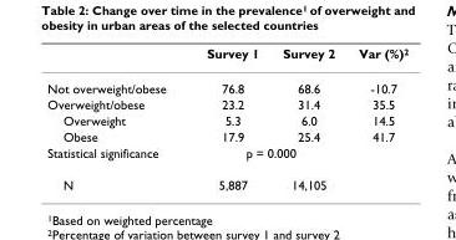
<table><thead><tr><td></td><td>Survey 1</td><td>Survey 2</td><td>Var (%)<sup>2</sup></td></tr></thead><tbody><tr><td>Not overweight/obese</td><td>76.8</td><td>68.6</td><td>-10.7</td></tr><tr><td>Overweight/obese</td><td>23.2</td><td>31.4</td><td>35.5</td></tr><tr><td>Overweight</td><td>5.3</td><td>6.0</td><td>14.5</td></tr><tr><td>Obese</td><td>17.9</td><td>25.4</td><td>41.7</td></tr><tr><td>Statistical significance</td><td colspan="2">p = 0.000</td><td></td></tr><tr><td>N</td><td>5,887</td><td>14,105</td><td></td></tr></tbody></table>